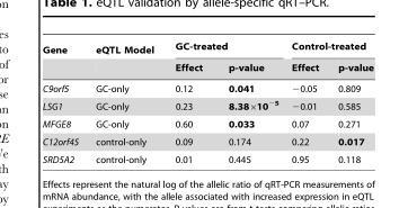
<table><thead><tr><td rowspan="2">Gene</td><td rowspan="2">eQTL Model</td><td colspan="2">GC-treated</td><td colspan="2">Control-treated</td></tr><tr><td>Effect</td><td>p-value</td><td>Effect</td><td>p-value</td></tr></thead><tbody><tr><td>C9orf5</td><td>GC-only</td><td>0.12</td><td>0.041</td><td>−0.05</td><td>0.809</td></tr><tr><td>LSG1</td><td>GC-only</td><td>0.23</td><td>8.38×10<sup>−5</sup></td><td>−0.01</td><td>0.585</td></tr><tr><td>MFGE8</td><td>GC-only</td><td>0.60</td><td>0.033</td><td>0.07</td><td>0.271</td></tr><tr><td>C12orf45</td><td>control-only</td><td>0.09</td><td>0.174</td><td>0.22</td><td>0.017</td></tr><tr><td>SRD5A2</td><td>control-only</td><td>0.01</td><td>0.445</td><td>0.95</td><td>0.118</td></tr></tbody></table>